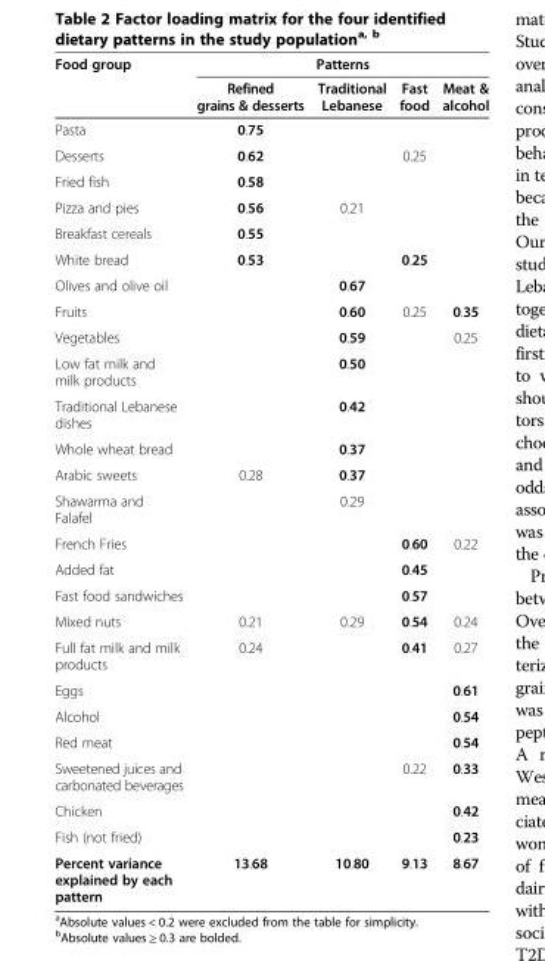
<table><thead><tr><td rowspan="2">Food group</td><td colspan="4">Patterns</td></tr><tr><td>Refined grains &amp; desserts</td><td>Traditional Lebanese</td><td>Fast food</td><td>Meat &amp; alcohol</td></tr></thead><tbody><tr><td>Pasta</td><td>0.75</td><td></td><td></td><td></td></tr><tr><td>Desserts</td><td>0.62</td><td></td><td>0.25</td><td></td></tr><tr><td>Fried fish</td><td>0.58</td><td></td><td></td><td></td></tr><tr><td>Pizza and pies</td><td>0.56</td><td>0.21</td><td></td><td></td></tr><tr><td>Breakfast cereals</td><td>0.55</td><td></td><td></td><td></td></tr><tr><td>White bread</td><td>0.53</td><td></td><td>0.25</td><td></td></tr><tr><td>Olives and olive oil</td><td></td><td>0.67</td><td></td><td></td></tr><tr><td>Fruits</td><td></td><td>0.60</td><td>0.25</td><td>0.35</td></tr><tr><td>Vegetables</td><td></td><td>0.59</td><td></td><td>0.25</td></tr><tr><td>Low fat milk and milk products</td><td></td><td>0.50</td><td></td><td></td></tr><tr><td>Traditional Lebanese dishes</td><td></td><td>0.42</td><td></td><td></td></tr><tr><td>Whole wheat bread</td><td></td><td>0.37</td><td></td><td></td></tr><tr><td>Arabic sweets</td><td>0.28</td><td>0.37</td><td></td><td></td></tr><tr><td>Shawarma and Falafel</td><td></td><td>0.29</td><td></td><td></td></tr><tr><td>French Fries</td><td></td><td></td><td>0.60</td><td>0.22</td></tr><tr><td>Added fat</td><td></td><td></td><td>0.45</td><td></td></tr><tr><td>Fast food sandwiches</td><td></td><td></td><td>0.57</td><td></td></tr><tr><td>Mixed nuts</td><td>0.21</td><td>0.29</td><td>0.54</td><td>0.24</td></tr><tr><td>Full fat milk and milk products</td><td>0.24</td><td></td><td>0.41</td><td>0.27</td></tr><tr><td>Eggs</td><td></td><td></td><td></td><td>0.61</td></tr><tr><td>Alcohol</td><td></td><td></td><td></td><td>0.54</td></tr><tr><td>Red meat</td><td></td><td></td><td></td><td>0.54</td></tr><tr><td>Sweetened juices and carbonated beverages</td><td></td><td></td><td>0.22</td><td>0.33</td></tr><tr><td>Chicken</td><td></td><td></td><td></td><td>0.42</td></tr><tr><td>Fish (not fried)</td><td></td><td></td><td></td><td>0.23</td></tr><tr><td>Percent variance explained by each pattern</td><td>13.68</td><td>10.80</td><td>9.13</td><td>8.67</td></tr></tbody></table>